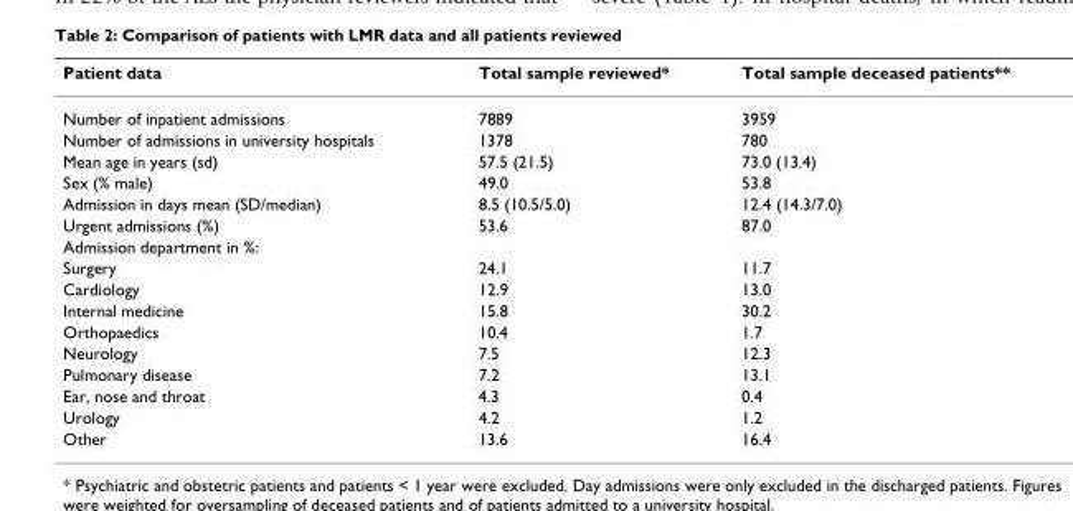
<table><thead><tr><td>Patient data</td><td>Total sample reviewed*</td><td>Total sample deceased patients**</td></tr></thead><tbody><tr><td>Number of inpatient admissions</td><td>7889</td><td>3959</td></tr><tr><td>Number of admissions in university hospitals</td><td>1378</td><td>780</td></tr><tr><td>Mean age in years (sd)</td><td>57.5 (21.5)</td><td>73.0 (13.4)</td></tr><tr><td>Sex (% male)</td><td>49.0</td><td>53.8</td></tr><tr><td>Admission in days mean (SD/median)</td><td>8.5 (10.5/5.0)</td><td>12.4 (14.3/7.0)</td></tr><tr><td>Urgent admissions (%)</td><td>53.6</td><td>87.0</td></tr><tr><td colspan="3">Admission department in %:</td></tr><tr><td>Surgery</td><td>24.1</td><td>11.7</td></tr><tr><td>Cardiology</td><td>12.9</td><td>13.0</td></tr><tr><td>Internal medicine</td><td>15.8</td><td>30.2</td></tr><tr><td>Orthopaedics</td><td>10.4</td><td>1.7</td></tr><tr><td>Neurology</td><td>7.5</td><td>12.3</td></tr><tr><td>Pulmonary disease</td><td>7.2</td><td>13.1</td></tr><tr><td>Ear, nose and throat</td><td>4.3</td><td>0.4</td></tr><tr><td>Urology</td><td>4.2</td><td>1.2</td></tr><tr><td>Other</td><td>13.6</td><td>16.4</td></tr></tbody></table>